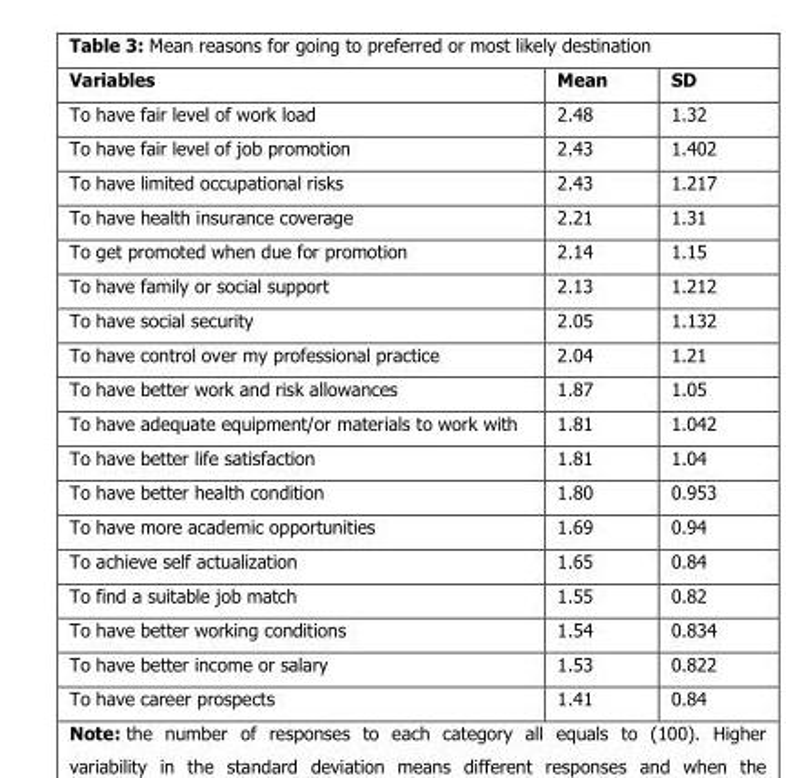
<table><thead><tr><td>Variables</td><td>Mean</td><td>SD</td></tr></thead><tbody><tr><td>To have fair level of work load</td><td>2.48</td><td>1.32</td></tr><tr><td>To have fair level of job promotion</td><td>2.43</td><td>1.402</td></tr><tr><td>To have limited occupational risks</td><td>2.43</td><td>1.217</td></tr><tr><td>To have health insurance coverage</td><td>2.21</td><td>1.31</td></tr><tr><td>To get promoted when due for promotion</td><td>2.14</td><td>1.15</td></tr><tr><td>To have family or social support</td><td>2.13</td><td>1.212</td></tr><tr><td>To have social security</td><td>2.05</td><td>1.132</td></tr><tr><td>To have control over my professional practice</td><td>2.04</td><td>1.21</td></tr><tr><td>To have better work and risk allowances</td><td>1.87</td><td>1.05</td></tr><tr><td>To have adequate equipment/or materials to work with</td><td>1.81</td><td>1.042</td></tr><tr><td>To have better life satisfaction</td><td>1.81</td><td>1.04</td></tr><tr><td>To have better health condition</td><td>1.80</td><td>0.953</td></tr><tr><td>To have more academic opportunities</td><td>1.69</td><td>0.94</td></tr><tr><td>To achieve self actualization</td><td>1.65</td><td>0.84</td></tr><tr><td>To find a suitable job match</td><td>1.55</td><td>0.82</td></tr><tr><td>To have better working conditions</td><td>1.54</td><td>0.834</td></tr><tr><td>To have better income or salary</td><td>1.53</td><td>0.822</td></tr><tr><td>To have career prospects</td><td>1.41</td><td>0.84</td></tr></tbody></table>